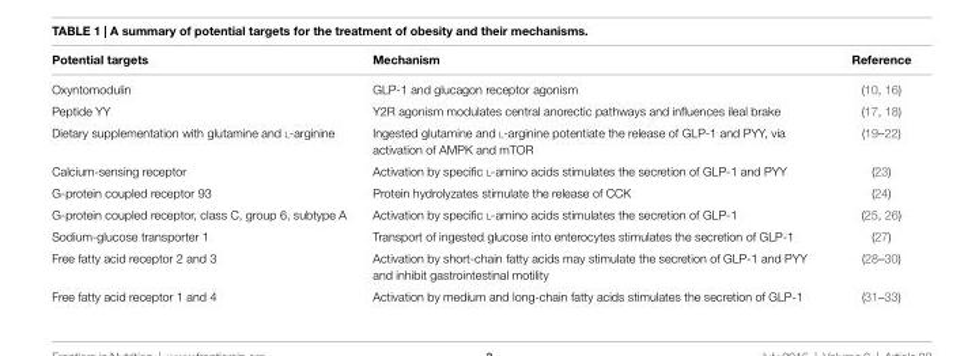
<table><thead><tr><td>Potential targets</td><td>Mechanism</td><td>Reference</td></tr></thead><tbody><tr><td>Oxyntomodulin</td><td>GLP-1 and glucagon receptor agonism</td><td>(10, 16)</td></tr><tr><td>Peptide YY</td><td>Y2R agonism modulates central anorectic pathways and influences ileal brake</td><td>(17, 18)</td></tr><tr><td>Dietary supplementation with glutamine and l-arginine</td><td>Ingested glutamine and l-arginine potentiate the release of GLP-1 and PYY, via activation of AMPK and mTOR</td><td>(19–22)</td></tr><tr><td>Calcium-sensing receptor</td><td>Activation by specific l-amino acids stimulates the secretion of GLP-1 and PYY</td><td>(23)</td></tr><tr><td>G-protein coupled receptor 93</td><td>Protein hydrolyzates stimulate the release of CCK</td><td>(24)</td></tr><tr><td>G-protein coupled receptor, class C, group 6, subtype A</td><td>Activation by specific l-amino acids stimulates the secretion of GLP-1</td><td>(25, 26)</td></tr><tr><td>Sodium-glucose transporter 1</td><td>Transport of ingested glucose into enterocytes stimulates the secretion of GLP-1</td><td>(27)</td></tr><tr><td>Free fatty acid receptor 2 and 3</td><td>Activation by short-chain fatty acids may stimulate the secretion of GLP-1 and PYY and inhibit gastrointestinal motility</td><td>(28–30)</td></tr><tr><td>Free fatty acid receptor 1 and 4</td><td>Activation by medium and long-chain fatty acids stimulates the secretion of GLP-1</td><td>(31–33)</td></tr></tbody></table>